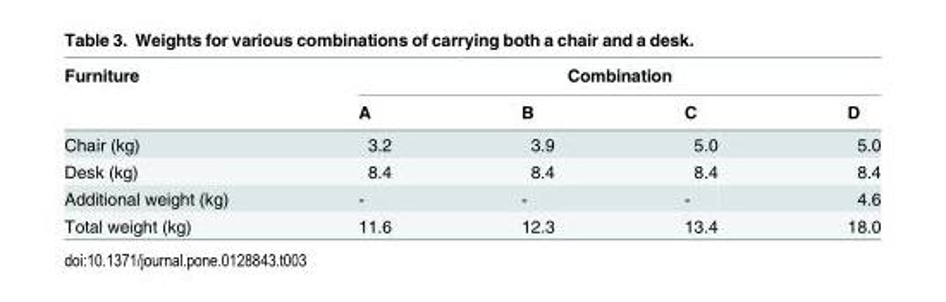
<table><thead><tr><td rowspan="2">Furniture</td><td colspan="4">Combination</td></tr><tr><td>A</td><td>B</td><td>C</td><td>D</td></tr></thead><tbody><tr><td>Chair (kg)</td><td>3.2</td><td>3.9</td><td>5.0</td><td>5.0</td></tr><tr><td>Desk (kg)</td><td>8.4</td><td>8.4</td><td>8.4</td><td>8.4</td></tr><tr><td>Additional weight (kg)</td><td>-</td><td>-</td><td>-</td><td>4.6</td></tr><tr><td>Total weight (kg)</td><td>11.6</td><td>12.3</td><td>13.4</td><td>18.0</td></tr></tbody></table>